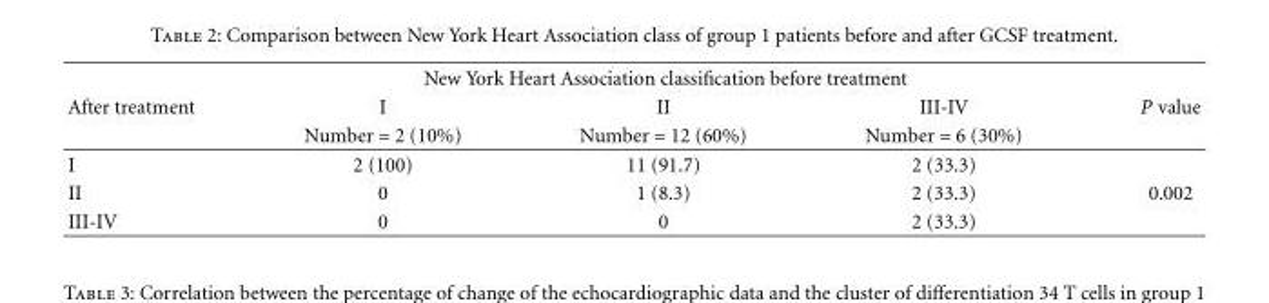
<table><thead><tr><td rowspan="3">After treatment</td><td colspan="3">New York Heart Association classification before treatment</td><td rowspan="3">P value</td></tr><tr><td rowspan="2">I Number = 2 (10%)</td><td rowspan="2">II Number = 12 (60%)</td><td rowspan="2">III-IV Number = 6 (30%)</td></tr><tr></tr></thead><tbody><tr><td>I</td><td>2 (100)</td><td>11 (91.7)</td><td>2 (33.3)</td><td></td></tr><tr><td>II</td><td>0</td><td>1 (8.3)</td><td>2 (33.3)</td><td>0.002</td></tr><tr><td>III-IV</td><td>0</td><td>0</td><td>2 (33.3)</td><td></td></tr></tbody></table>